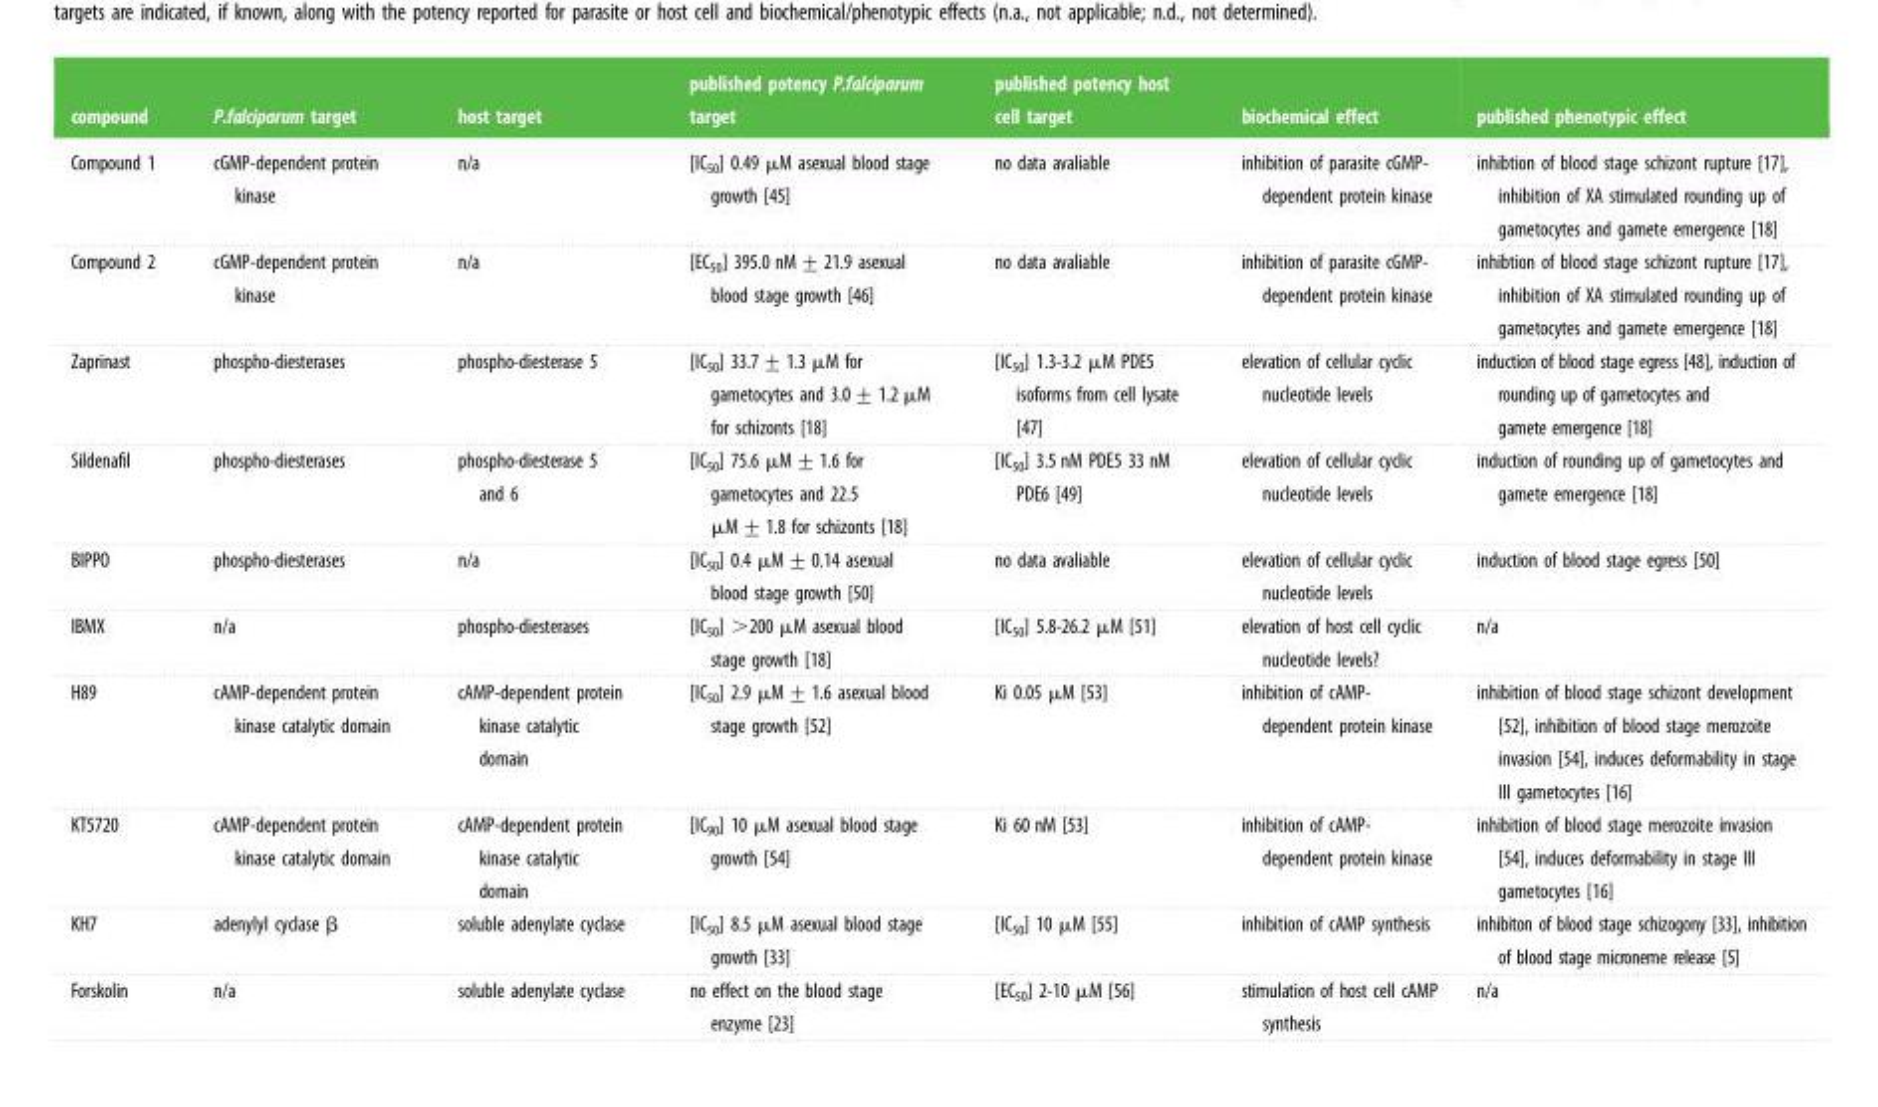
<table><thead><tr><td>compound</td><td>P.falciparum target</td><td>host target</td><td>published potency P.falciparum target</td><td>published potency host cell target</td><td>biochemical effect</td><td>published phenotypic effect</td></tr></thead><tbody><tr><td>Compound 1</td><td>cGMP-dependent protein kinase</td><td>n/a</td><td>[IC<sub>50</sub>] 0.49 µM asexual blood stage growth [45]</td><td>no data avaliable</td><td>inhibition of parasite cGMP- dependent protein kinase</td><td>inhibtion of blood stage schizont rupture [17], inhibition of XA stimulated rounding up of gametocytes and gamete emergence [18]</td></tr><tr><td>Compound 2</td><td>cGMP-dependent protein kinase</td><td>n/a</td><td>[EC50] 395.0 nM +21.9 asexual blood stage growth [46]</td><td>no data avaliable</td><td>inhibition of parasite cGMP- dependent protein kinase</td><td>inhibtion of blood stage schizont rupture [17], inhibition of XA stimulated rounding up of gametocytes and gamete emergence [18]</td></tr><tr><td>Zaprinast</td><td>phospho-diesterases</td><td>phospho-diesterase 5</td><td>[IC50] 33.7+1.3 mM for gametocytes and 3.0+ 1.2 mM for schizonts [18]</td><td>[IC<sub>50</sub>] 1.3-3.2 µM PDE5 isoforms from cell lysate [47]</td><td>elevation of cellular cyclic nucleotide levels</td><td>induction of blood stage egress [48], induction of rounding up of gametocytes and gamete emergence [18]</td></tr><tr><td>Sildenafil</td><td>phospho-diesterases</td><td>phospho-diesterase 5 and 6</td><td>[IC50] 75.6 mM + 1.6 for gametocytes and 22.5 mM +1.8 for schizonts [18]</td><td>[IC<sub>50</sub>] 3.5 nM PDE5 33 nM PDE6 [49]</td><td>elevation of cellular cyclic nucleotide levels</td><td>induction of rounding up of gametocytes and gamete emergence [18]</td></tr><tr><td>BIPPO</td><td>phospho-diesterases</td><td>n/a</td><td>[IC50] 0.4 mM +0.14 asexual blood stage growth [50]</td><td>no data avaliable</td><td>elevation of cellular cyclic nucleotide levels</td><td>induction of blood stage egress [50]</td></tr><tr><td>IBMX</td><td>n/a</td><td>phospho-diesterases</td><td>[IC<sub>50</sub>] &gt;200 µM asexual blood stage growth [18]</td><td>[IC<sub>50</sub>] 5.8-26.2 µM [51]</td><td>elevation of host cell cyclic nucleotide levels?</td><td>n/a</td></tr><tr><td>H89</td><td>cAMP-dependent protein kinase catalytic domain</td><td>cAMP-dependent protein kinase catalytic domain</td><td>[IC50] 2.9 mM +1.6 asexual blood stage growth [52]</td><td>Ki 0.05 µM [53]</td><td>inhibition of cAMP- dependent protein kinase</td><td>inhibition of blood stage schizont development [52], inhibition of blood stage merozoite invasion [54], induces deformability in stage III gametocytes [16]</td></tr><tr><td>KT5720</td><td>cAMP-dependent protein kinase catalytic domain</td><td>cAMP-dependent protein kinase catalytic domain</td><td>[IC<sub>90</sub>] 10 µM asexual blood stage growth [54]</td><td>Ki 60 nM [53]</td><td>inhibition of cAMP- dependent protein kinase</td><td>inhibition of blood stage merozoite invasion [54], induces deformability in stage III gametocytes [16]</td></tr><tr><td>KH7</td><td>adenylyl cyclase β</td><td>soluble adenylate cyclase</td><td>[IC<sub>50</sub>] 8.5 µM asexual blood stage growth [33]</td><td>[IC<sub>50</sub>] 10 µM [55]</td><td>inhibition of cAMP synthesis</td><td>inhibiton of blood stage schizogony [33], inhibition of blood stage microneme release [5]</td></tr><tr><td>Forskolin</td><td>n/a</td><td>soluble adenylate cyclase</td><td>no effect on the blood stage enzyme [23]</td><td>[EC<sub>50</sub>] 2-10 µM [56]</td><td>stimulation of host cell cAMP synthesis</td><td>n/a</td></tr></tbody></table>